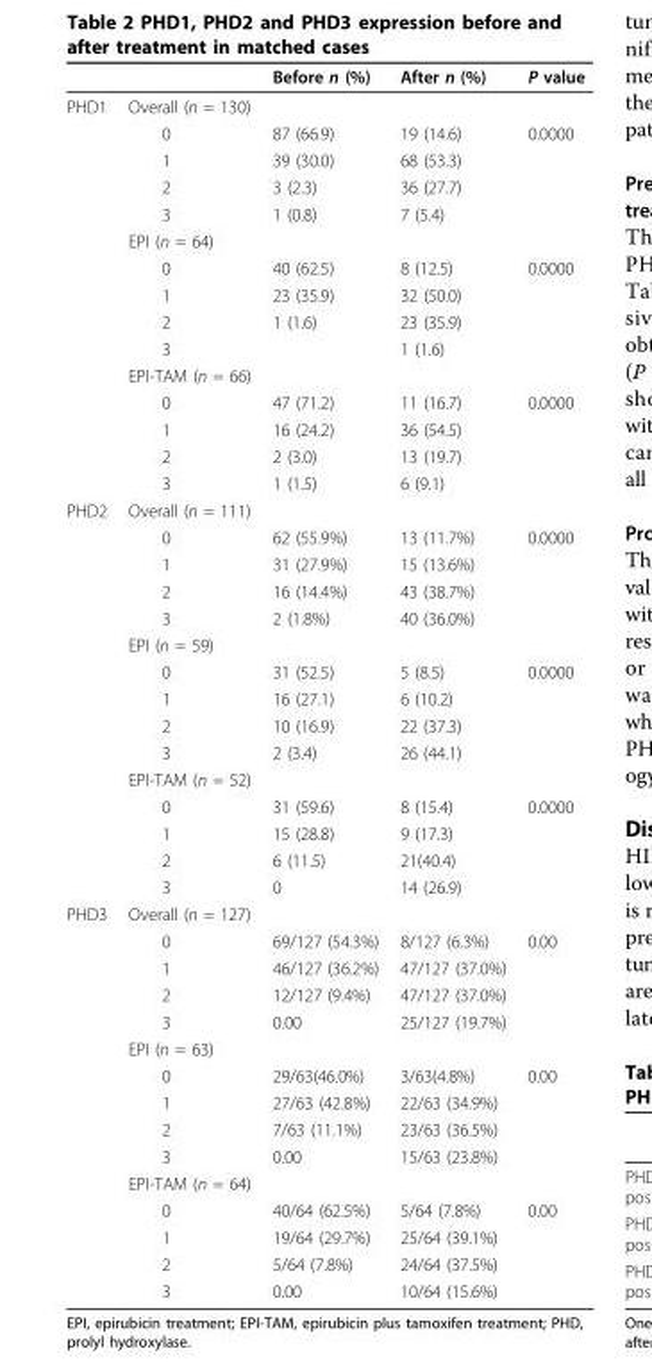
<table><thead><tr><td></td><td></td><td>Before n (%)</td><td>After n (%)</td><td>P value</td></tr></thead><tbody><tr><td rowspan="15">PHD1</td><td>Overall (n = 130)</td><td></td><td></td><td></td></tr><tr><td>0</td><td>87 (66.9)</td><td>19 (14.6)</td><td>0.0000</td></tr><tr><td>1</td><td>39 (30.0)</td><td>68 (53.3)</td><td></td></tr><tr><td>2</td><td>3 (2.3)</td><td>36 (27.7)</td><td></td></tr><tr><td>3</td><td>1 (0.8)</td><td>7 (5.4)</td><td></td></tr><tr><td>EPI (n = 64)</td><td></td><td></td><td></td></tr><tr><td>0</td><td>40 (62.5)</td><td>8 (12.5)</td><td>0.0000</td></tr><tr><td>1</td><td>23 (35.9)</td><td>32 (50.0)</td><td></td></tr><tr><td>2</td><td>1 (1.6)</td><td>23 (35.9)</td><td></td></tr><tr><td>3</td><td></td><td>1 (1.6)</td><td></td></tr><tr><td>EPI-TAM (n = 66)</td><td></td><td></td><td></td></tr><tr><td>0</td><td>47 (71.2)</td><td>11 (16.7)</td><td>0.0000</td></tr><tr><td>1</td><td>16 (24.2)</td><td>36 (54.5)</td><td></td></tr><tr><td>2</td><td>2 (3.0)</td><td>13 (19.7)</td><td></td></tr><tr><td>3</td><td>1 (1.5)</td><td>6 (9.1)</td><td></td></tr><tr><td rowspan="15">PHD2</td><td>Overall (n = 111)</td><td></td><td></td><td></td></tr><tr><td>0</td><td>62 (55.9%)</td><td>13 (11.7%)</td><td>0.0000</td></tr><tr><td>1</td><td>31 (27.9%)</td><td>15 (13.6%)</td><td></td></tr><tr><td>2</td><td>16 (14.4%)</td><td>43 (38.7%)</td><td></td></tr><tr><td>3</td><td>2 (1.8%)</td><td>40 (36.0%)</td><td></td></tr><tr><td>EPI (n = 59)</td><td></td><td></td><td></td></tr><tr><td>0</td><td>31 (52.5)</td><td>5 (8.5)</td><td>0.0000</td></tr><tr><td>1</td><td>16 (27.1)</td><td>6 (10.2)</td><td></td></tr><tr><td>2</td><td>10 (16.9)</td><td>22 (37.3)</td><td></td></tr><tr><td>3</td><td>2 (3.4)</td><td>26 (44.1)</td><td></td></tr><tr><td>EPI-TAM (n = 52)</td><td></td><td></td><td></td></tr><tr><td>0</td><td>31 (59.6)</td><td>8 (15.4)</td><td>0.0000</td></tr><tr><td>1</td><td>15 (28.8)</td><td>9 (17.3)</td><td></td></tr><tr><td>2</td><td>6 (11.5)</td><td>21(40.4)</td><td></td></tr><tr><td>3</td><td>0</td><td>14 (26.9)</td><td></td></tr><tr><td rowspan="15">PHD3</td><td>Overall (n = 127)</td><td></td><td></td><td></td></tr><tr><td>0</td><td>69/127 (54.3%)</td><td>8/127 (6.3%)</td><td>0.00</td></tr><tr><td>1</td><td>46/127 (36.2%)</td><td>47/127 (37.0%)</td><td></td></tr><tr><td>2</td><td>12/127 (9.4%)</td><td>47/127 (37.0%)</td><td></td></tr><tr><td>3</td><td>0.00</td><td>25/127 (19.7%)</td><td></td></tr><tr><td>EPI (n = 63)</td><td></td><td></td><td></td></tr><tr><td>0</td><td>29/63(46.0%)</td><td>3/63(4.8%)</td><td>0.00</td></tr><tr><td>1</td><td>27/63 (42.8%)</td><td>22/63 (34.9%)</td><td></td></tr><tr><td>2</td><td>7/63 (11.1%)</td><td>23/63 (36.5%)</td><td></td></tr><tr><td>3</td><td>0.00</td><td>15/63 (23.8%)</td><td></td></tr><tr><td>EPI-TAM (n = 64)</td><td></td><td></td><td></td></tr><tr><td>0</td><td>40/64 (62.5%)</td><td>5/64 (7.8%)</td><td>0.00</td></tr><tr><td>1</td><td>19/64 (29.7%)</td><td>25/64 (39.1%)</td><td></td></tr><tr><td>2</td><td>5/64 (7.8%)</td><td>24/64 (37.5%)</td><td></td></tr><tr><td>3</td><td>0.00</td><td>10/64 (15.6%)</td><td></td></tr></tbody></table>